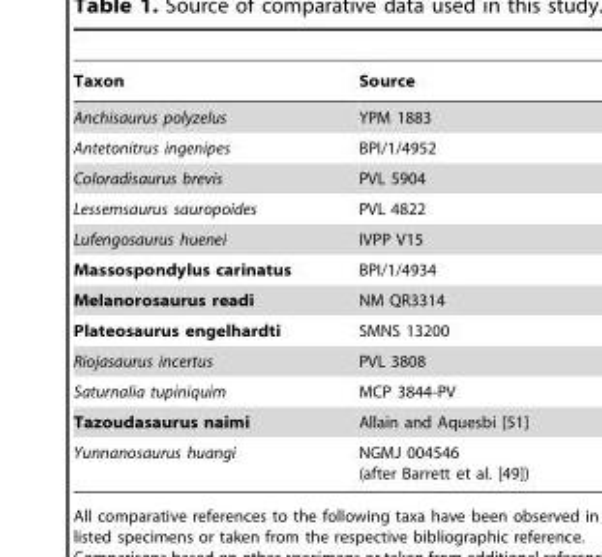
<table><thead><tr><td>Taxon</td><td>Source</td></tr></thead><tbody><tr><td>Anchisaurus polyzelus</td><td>YPM 1883</td></tr><tr><td>Antetonitrus ingenipes</td><td>BPI/1/4952</td></tr><tr><td>Coloradisaurus brevis</td><td>PVL 5904</td></tr><tr><td>Lessemsaurus sauropoides</td><td>PVL 4822</td></tr><tr><td>Lufengosaurus huenei</td><td>IVPP V15</td></tr><tr><td>Massospondylus carinatus</td><td>BPI/1/4934</td></tr><tr><td>Melanorosaurus readi</td><td>NM QR3314</td></tr><tr><td>Plateosaurus engelhardti</td><td>SMNS 13200</td></tr><tr><td>Riojasaurus incertus</td><td>PVL 3808</td></tr><tr><td>Saturnalia tupiniquim</td><td>MCP 3844-PV</td></tr><tr><td>Tazoudasaurus naimi</td><td>Allain and Aquesbi [51]</td></tr><tr><td>Yunnanosaurus huangi</td><td>NGMJ 004546 (after Barrett et al. [49])</td></tr></tbody></table>